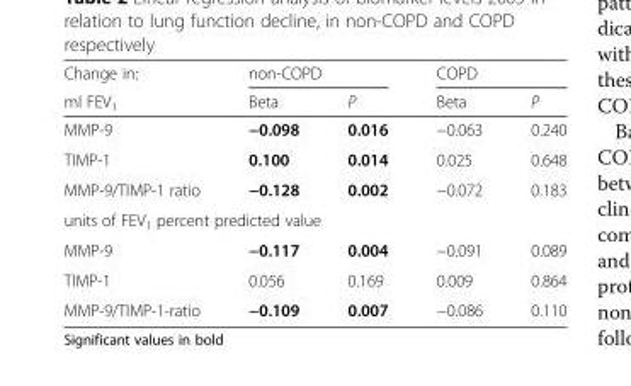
<table><thead><tr><td rowspan="2">Change in: ml FEV<sub>1</sub></td><td colspan="2">non-COPD</td><td colspan="2">COPD</td></tr><tr><td>Beta</td><td>P</td><td>Beta</td><td>P</td></tr></thead><tbody><tr><td>MMP-9</td><td>−0.098</td><td>0.016</td><td>−0.063</td><td>0.240</td></tr><tr><td>TIMP-1</td><td>0.100</td><td>0.014</td><td>0.025</td><td>0.648</td></tr><tr><td>MMP-9/TIMP-1 ratio</td><td>−0.128</td><td>0.002</td><td>−0.072</td><td>0.183</td></tr><tr><td colspan="5">units of FEV<sub>1</sub> percent predicted value</td></tr><tr><td>MMP-9</td><td>−0.117</td><td>0.004</td><td>−0.091</td><td>0.089</td></tr><tr><td>TIMP-1</td><td>0.056</td><td>0.169</td><td>0.009</td><td>0.864</td></tr><tr><td>MMP-9/TIMP-1-ratio</td><td>−0.109</td><td>0.007</td><td>−0.086</td><td>0.110</td></tr></tbody></table>